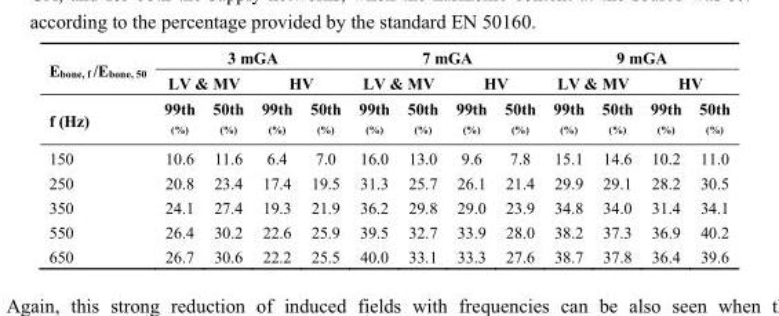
<table><thead><tr><td rowspan="3">E<sub>bone, f</sub> /E<sub>bone, 50</sub> f (Hz)</td><td colspan="4">3 mGA</td><td colspan="4">7 mGA</td><td colspan="4">9 mGA</td></tr><tr><td colspan="2">LV &amp; MV</td><td colspan="2">HV</td><td colspan="2">LV &amp; MV</td><td colspan="2">HV</td><td colspan="2">LV &amp; MV</td><td colspan="2">HV</td></tr><tr><td>99th <sup>(%)</sup></td><td>50th <sup>(%)</sup></td><td>99th <sup>(%)</sup></td><td>50th <sup>(%)</sup></td><td>99th <sup>(%)</sup></td><td>50th <sup>(%)</sup></td><td>99th <sup>(%)</sup></td><td>50th <sup>(%)</sup></td><td>99th <sup>(%)</sup></td><td>50th <sup>(%)</sup></td><td>99th <sup>(%)</sup></td><td>50th <sup>(%)</sup></td></tr></thead><tbody><tr><td>150</td><td>10.6</td><td>11.6</td><td>6.4</td><td>7.0</td><td>16.0</td><td>13.0</td><td>9.6</td><td>7.8</td><td>15.1</td><td>14.6</td><td>10.2</td><td>11.0</td></tr><tr><td>250</td><td>20.8</td><td>23.4</td><td>17.4</td><td>19.5</td><td>31.3</td><td>25.7</td><td>26.1</td><td>21.4</td><td>29.9</td><td>29.1</td><td>28.2</td><td>30.5</td></tr><tr><td>350</td><td>24.1</td><td>27.4</td><td>19.3</td><td>21.9</td><td>36.2</td><td>29.8</td><td>29.0</td><td>23.9</td><td>34.8</td><td>34.0</td><td>31.4</td><td>34.1</td></tr><tr><td>550</td><td>26.4</td><td>30.2</td><td>22.6</td><td>25.9</td><td>39.5</td><td>32.7</td><td>33.9</td><td>28.0</td><td>38.2</td><td>37.3</td><td>36.9</td><td>40.2</td></tr><tr><td>650</td><td>26.7</td><td>30.6</td><td>22.2</td><td>25.5</td><td>40.0</td><td>33.1</td><td>33.3</td><td>27.6</td><td>38.7</td><td>37.8</td><td>36.4</td><td>39.6</td></tr></tbody></table>